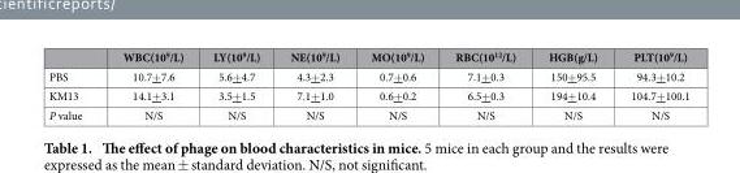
<table><thead><tr><td></td><td>WBC(10<sup>9</sup>/L)</td><td>LY(10<sup>9</sup>/L)</td><td>NE(10<sup>9</sup>/L)</td><td>MO(10<sup>9</sup>/L)</td><td>RBC(10<sup>12</sup>/L)</td><td>HGB(g/L)</td><td>PLT(10<sup>9</sup>/L)</td></tr></thead><tbody><tr><td>PBS</td><td>10.7+7.6</td><td>5.6+4.7</td><td>4.3+2.3</td><td>0.7+0.6</td><td>7.1+0.3</td><td>150+95.5</td><td>94.3+10.2</td></tr><tr><td>KM13</td><td>14.1+3.1</td><td>3.5+1.5</td><td>7.1+1.0</td><td>0.6+0.2</td><td>6.5+0.3</td><td>194+10.4</td><td>104.7+100.1</td></tr><tr><td>P value</td><td>N/S</td><td>N/S</td><td>N/S</td><td>N/S</td><td>N/S</td><td>N/S</td><td>N/S</td></tr></tbody></table>